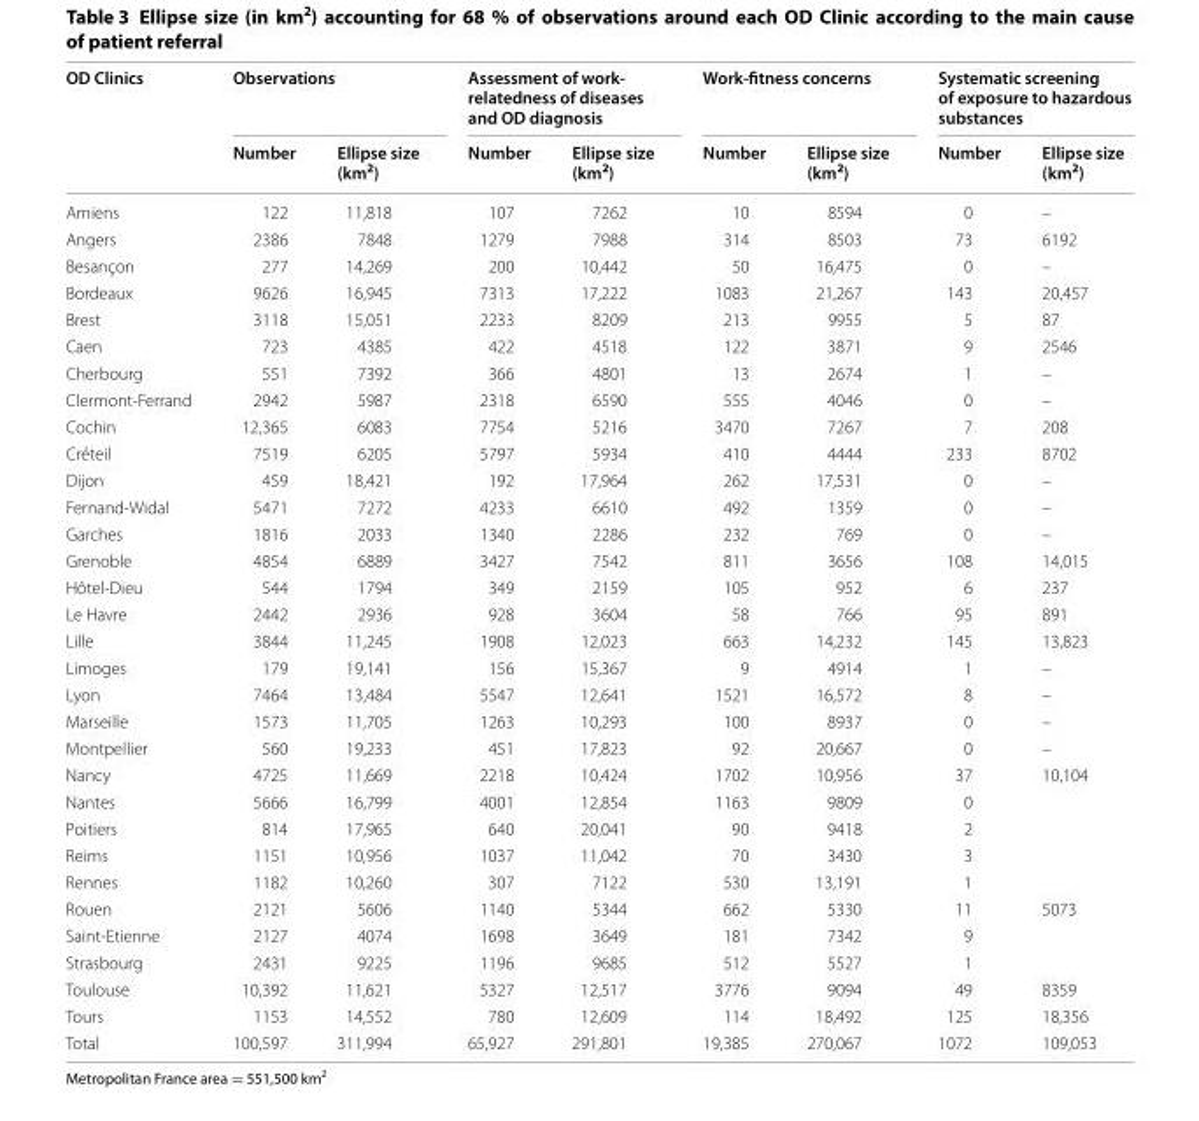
<table><thead><tr><td rowspan="2">OD Clinics</td><td colspan="2">Observations</td><td colspan="2">Assessment of work- relatedness of diseases and OD diagnosis</td><td colspan="2">Work-fitness concerns</td><td colspan="2">Systematic screening of exposure to hazardous substances</td></tr><tr><td>Number</td><td>Ellipse size (km<sup>2</sup>)</td><td>Number</td><td>Ellipse size (km<sup>2</sup>)</td><td>Number</td><td>Ellipse size (km<sup>2</sup>)</td><td>Number</td><td>Ellipse size (km<sup>2</sup>)</td></tr></thead><tbody><tr><td>Amiens</td><td>122</td><td>11,818</td><td>107</td><td>7262</td><td>10</td><td>8594</td><td>0</td><td>–</td></tr><tr><td>Angers</td><td>2386</td><td>7848</td><td>1279</td><td>7988</td><td>314</td><td>8503</td><td>73</td><td>6192</td></tr><tr><td>Besançon</td><td>277</td><td>14,269</td><td>200</td><td>10,442</td><td>50</td><td>16,475</td><td>0</td><td>–</td></tr><tr><td>Bordeaux</td><td>9626</td><td>16,945</td><td>7313</td><td>17,222</td><td>1083</td><td>21,267</td><td>143</td><td>20,457</td></tr><tr><td>Brest</td><td>3118</td><td>15,051</td><td>2233</td><td>8209</td><td>213</td><td>9955</td><td>5</td><td>87</td></tr><tr><td>Caen</td><td>723</td><td>4385</td><td>422</td><td>4518</td><td>122</td><td>3871</td><td>9</td><td>2546</td></tr><tr><td>Cherbourg</td><td>551</td><td>7392</td><td>366</td><td>4801</td><td>13</td><td>2674</td><td>1</td><td>–</td></tr><tr><td>Clermont‑Ferrand</td><td>2942</td><td>5987</td><td>2318</td><td>6590</td><td>555</td><td>4046</td><td>0</td><td>–</td></tr><tr><td>Cochin</td><td>12,365</td><td>6083</td><td>7754</td><td>5216</td><td>3470</td><td>7267</td><td>7</td><td>208</td></tr><tr><td>Créteil</td><td>7519</td><td>6205</td><td>5797</td><td>5934</td><td>410</td><td>4444</td><td>233</td><td>8702</td></tr><tr><td>Dijon</td><td>459</td><td>18,421</td><td>192</td><td>17,964</td><td>262</td><td>17,531</td><td>0</td><td>–</td></tr><tr><td>Fernand‑Widal</td><td>5471</td><td>7272</td><td>4233</td><td>6610</td><td>492</td><td>1359</td><td>0</td><td>–</td></tr><tr><td>Garches</td><td>1816</td><td>2033</td><td>1340</td><td>2286</td><td>232</td><td>769</td><td>0</td><td>–</td></tr><tr><td>Grenoble</td><td>4854</td><td>6889</td><td>3427</td><td>7542</td><td>811</td><td>3656</td><td>108</td><td>14,015</td></tr><tr><td>Hôtel‑Dieu</td><td>544</td><td>1794</td><td>349</td><td>2159</td><td>105</td><td>952</td><td>6</td><td>237</td></tr><tr><td>Le Havre</td><td>2442</td><td>2936</td><td>928</td><td>3604</td><td>58</td><td>766</td><td>95</td><td>891</td></tr><tr><td>Lille</td><td>3844</td><td>11,245</td><td>1908</td><td>12,023</td><td>663</td><td>14,232</td><td>145</td><td>13,823</td></tr><tr><td>Limoges</td><td>179</td><td>19,141</td><td>156</td><td>15,367</td><td>9</td><td>4914</td><td>1</td><td>–</td></tr><tr><td>Lyon</td><td>7464</td><td>13,484</td><td>5547</td><td>12,641</td><td>1521</td><td>16,572</td><td>8</td><td>–</td></tr><tr><td>Marseille</td><td>1573</td><td>11,705</td><td>1263</td><td>10,293</td><td>100</td><td>8937</td><td>0</td><td>–</td></tr><tr><td>Montpellier</td><td>560</td><td>19,233</td><td>451</td><td>17,823</td><td>92</td><td>20,667</td><td>0</td><td>–</td></tr><tr><td>Nancy</td><td>4725</td><td>11,669</td><td>2218</td><td>10,424</td><td>1702</td><td>10,956</td><td>37</td><td>10,104</td></tr><tr><td>Nantes</td><td>5666</td><td>16,799</td><td>4001</td><td>12,854</td><td>1163</td><td>9809</td><td>0</td><td></td></tr><tr><td>Poitiers</td><td>814</td><td>17,965</td><td>640</td><td>20,041</td><td>90</td><td>9418</td><td>2</td><td></td></tr><tr><td>Reims</td><td>1151</td><td>10,956</td><td>1037</td><td>11,042</td><td>70</td><td>3430</td><td>3</td><td></td></tr><tr><td>Rennes</td><td>1182</td><td>10,260</td><td>307</td><td>7122</td><td>530</td><td>13,191</td><td>1</td><td></td></tr><tr><td>Rouen</td><td>2121</td><td>5606</td><td>1140</td><td>5344</td><td>662</td><td>5330</td><td>11</td><td>5073</td></tr><tr><td>Saint‑Etienne</td><td>2127</td><td>4074</td><td>1698</td><td>3649</td><td>181</td><td>7342</td><td>9</td><td></td></tr><tr><td>Strasbourg</td><td>2431</td><td>9225</td><td>1196</td><td>9685</td><td>512</td><td>5527</td><td>1</td><td></td></tr><tr><td>Toulouse</td><td>10,392</td><td>11,621</td><td>5327</td><td>12,517</td><td>3776</td><td>9094</td><td>49</td><td>8359</td></tr><tr><td>Tours</td><td>1153</td><td>14,552</td><td>780</td><td>12,609</td><td>114</td><td>18,492</td><td>125</td><td>18,356</td></tr><tr><td>Total</td><td>100,597</td><td>311,994</td><td>65,927</td><td>291,801</td><td>19,385</td><td>270,067</td><td>1072</td><td>109,053</td></tr></tbody></table>